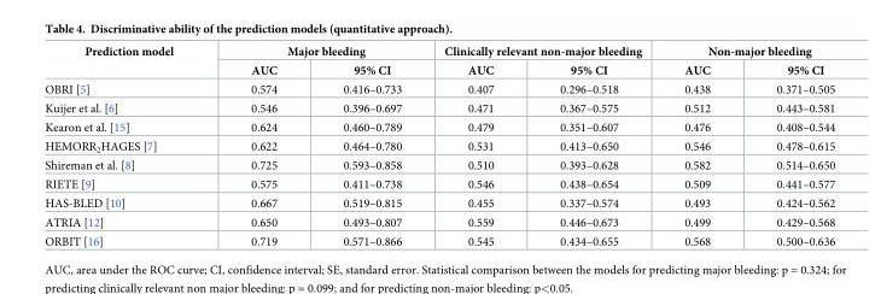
<table><thead><tr><td rowspan="2">Prediction model</td><td colspan="2">Major bleeding</td><td colspan="2">Clinically relevant non-major bleeding</td><td colspan="2">Non-major bleeding</td></tr><tr><td>AUC</td><td>95% CI</td><td>AUC</td><td>95% CI</td><td>AUC</td><td>95% CI</td></tr></thead><tbody><tr><td>OBRI [5]</td><td>0.574</td><td>0.416–0.733</td><td>0.407</td><td>0.296–0.518</td><td>0.438</td><td>0.371–0.505</td></tr><tr><td>Kuijer et al. [6]</td><td>0.546</td><td>0.396–0.697</td><td>0.471</td><td>0.367–0.575</td><td>0.512</td><td>0.443–0.581</td></tr><tr><td>Kearon et al. [15]</td><td>0.624</td><td>0.460–0.789</td><td>0.479</td><td>0.351–0.607</td><td>0.476</td><td>0.408–0.544</td></tr><tr><td>HEMORR<sub>2</sub>HAGES [7]</td><td>0.622</td><td>0.464–0.780</td><td>0.531</td><td>0.413–0.650</td><td>0.546</td><td>0.478–0.615</td></tr><tr><td>Shireman et al. [8]</td><td>0.725</td><td>0.593–0.858</td><td>0.510</td><td>0.393–0.628</td><td>0.582</td><td>0.514–0.650</td></tr><tr><td>RIETE [9]</td><td>0.575</td><td>0.411–0.738</td><td>0.546</td><td>0.438–0.654</td><td>0.509</td><td>0.441–0.577</td></tr><tr><td>HAS-BLED [10]</td><td>0.667</td><td>0.519–0.815</td><td>0.455</td><td>0.337–0.574</td><td>0.493</td><td>0.424–0.562</td></tr><tr><td>ATRIA [12]</td><td>0.650</td><td>0.493–0.807</td><td>0.559</td><td>0.446–0.673</td><td>0.499</td><td>0.429–0.568</td></tr><tr><td>ORBIT [16]</td><td>0.719</td><td>0.571–0.866</td><td>0.545</td><td>0.434–0.655</td><td>0.568</td><td>0.500–0.636</td></tr></tbody></table>